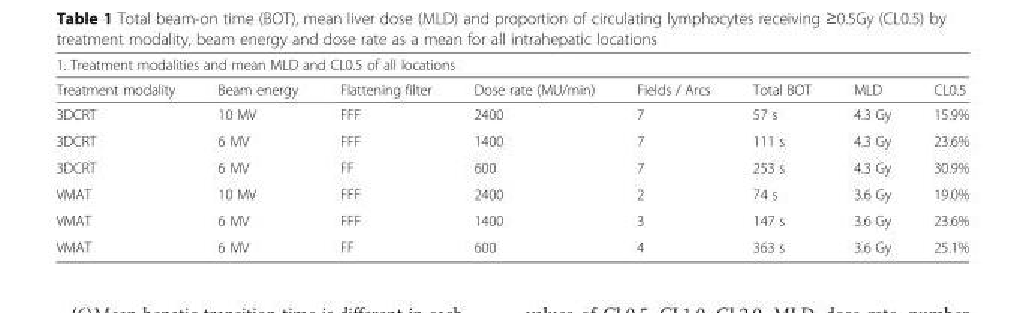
<table><thead><tr><td colspan="8">1. Treatment modalities and mean MLD and CL0.5 of all locations</td></tr><tr><td>Treatment modality</td><td>Beam energy</td><td>Flattening filter</td><td>Dose rate (MU/min)</td><td>Fields / Arcs</td><td>Total BOT</td><td>MLD</td><td>CL0.5</td></tr></thead><tbody><tr><td>3DCRT</td><td>10 MV</td><td>FFF</td><td>2400</td><td>7</td><td>57 s</td><td>4.3 Gy</td><td>15.9%</td></tr><tr><td>3DCRT</td><td>6 MV</td><td>FFF</td><td>1400</td><td>7</td><td>111 s</td><td>4.3 Gy</td><td>23.6%</td></tr><tr><td>3DCRT</td><td>6 MV</td><td>FF</td><td>600</td><td>7</td><td>253 s</td><td>4.3 Gy</td><td>30.9%</td></tr><tr><td>VMAT</td><td>10 MV</td><td>FFF</td><td>2400</td><td>2</td><td>74 s</td><td>3.6 Gy</td><td>19.0%</td></tr><tr><td>VMAT</td><td>6 MV</td><td>FFF</td><td>1400</td><td>3</td><td>147 s</td><td>3.6 Gy</td><td>23.6%</td></tr><tr><td>VMAT</td><td>6 MV</td><td>FF</td><td>600</td><td>4</td><td>363 s</td><td>3.6 Gy</td><td>25.1%</td></tr></tbody></table>